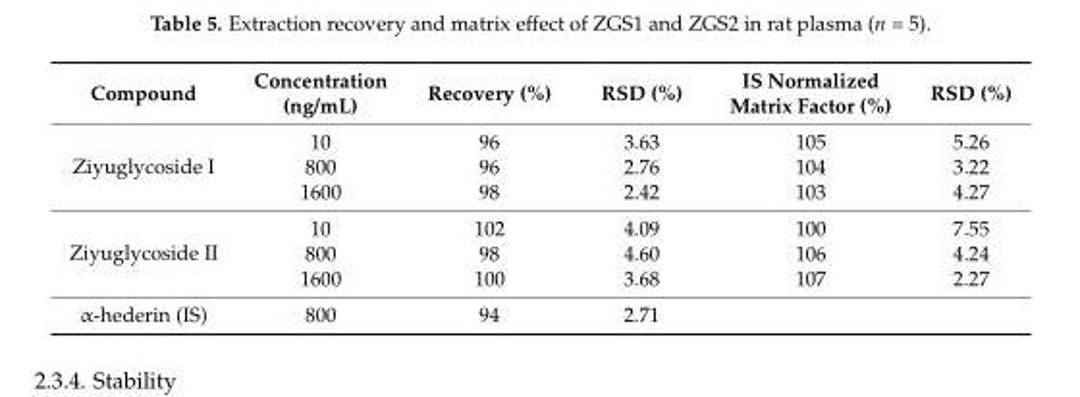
<table><thead><tr><td>Compound</td><td>Concentration (ng/mL)</td><td>Recovery (%)</td><td>RSD (%)</td><td>IS Normalized Matrix Factor (%)</td><td>RSD (%)</td></tr></thead><tbody><tr><td rowspan="3">Ziyuglycoside I</td><td>10</td><td>96</td><td>3.63</td><td>105</td><td>5.26</td></tr><tr><td>800</td><td>96</td><td>2.76</td><td>104</td><td>3.22</td></tr><tr><td>1600</td><td>98</td><td>2.42</td><td>103</td><td>4.27</td></tr><tr><td rowspan="3">Ziyuglycoside II</td><td>10</td><td>102</td><td>4.09</td><td>100</td><td>7.55</td></tr><tr><td>800</td><td>98</td><td>4.60</td><td>106</td><td>4.24</td></tr><tr><td>1600</td><td>100</td><td>3.68</td><td>107</td><td>2.27</td></tr><tr><td>α-hederin (IS)</td><td>800</td><td>94</td><td>2.71</td><td></td><td></td></tr></tbody></table>